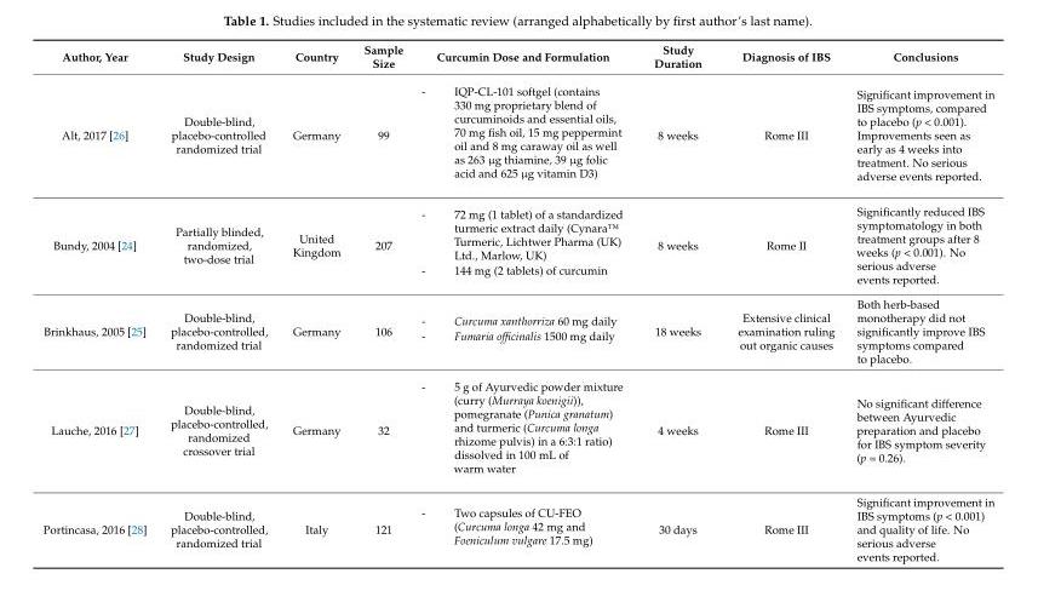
<table><thead><tr><td>Author, Year</td><td>Study Design</td><td>Country</td><td>Sample Size</td><td>Curcumin Dose and Formulation</td><td>Study Duration</td><td>Diagnosis of IBS</td><td>Conclusions</td></tr></thead><tbody><tr><td>Alt, 2017 [26]</td><td>Double-blind, placebo-controlled randomized trial</td><td>Germany</td><td>99</td><td>- IQP-CL-101 softgel (contains 330 mg proprietary blend of curcuminoids and essential oils, 70 mg fish oil, 15 mg peppermint oil and 8 mg caraway oil as well as 263 µg thiamine, 39 µg folic acid and 625 µg vitamin D3)</td><td>8 weeks</td><td>Rome III</td><td>Significant improvement in IBS symptoms, compared to placebo (p &lt; 0.001). Improvements seen as early as 4 weeks into treatment. No serious adverse events reported.</td></tr><tr><td>Bundy, 2004 [24]</td><td>Partially blinded, randomized, two-dose trial</td><td>United Kingdom</td><td>207</td><td>- 72 mg (1 tablet) of a standardized turmeric extract daily (Cynara™ Turmeric, Lichtwer Pharma (UK) Ltd., Marlow, UK) - 144 mg (2 tablets) of curcumin</td><td>8 weeks</td><td>Rome II</td><td>Significantly reduced IBS symptomatology in both treatment groups after 8 weeks (p &lt; 0.001). No serious adverse events reported.</td></tr><tr><td>Brinkhaus, 2005 [25]</td><td>Double-blind, placebo-controlled, randomized trial</td><td>Germany</td><td>106</td><td>- Curcuma xanthorriza 60 mg daily - Fumaria officinalis 1500 mg daily</td><td>18 weeks</td><td>Extensive clinical examination ruling out organic causes</td><td>Both herb-based monotherapy did not significantly improve IBS symptoms compared to placebo.</td></tr><tr><td>Lauche, 2016 [27]</td><td>Double-blind, placebo-controlled, randomized crossover trial</td><td>Germany</td><td>32</td><td>- 5 g of Ayurvedic powder mixture (curry (Murraya koenigii)), pomegranate (Punica granatum) and turmeric (Curcuma longa rhizome pulvis) in a 6:3:1 ratio) dissolved in 100 mL of warm water</td><td>4 weeks</td><td>Rome III</td><td>No significant difference between Ayurvedic preparation and placebo for IBS symptom severity (p = 0.26).</td></tr><tr><td>Portincasa, 2016 [28]</td><td>Double-blind, placebo-controlled, randomized trial</td><td>Italy</td><td>121</td><td>- Two capsules of CU-FEO (Curcuma longa 42 mg and Foeniculum vulgare 17.5 mg)</td><td>30 days</td><td>Rome III</td><td>Significant improvement in IBS symptoms (p &lt; 0.001) and quality of life. No serious adverse events reported.</td></tr></tbody></table>